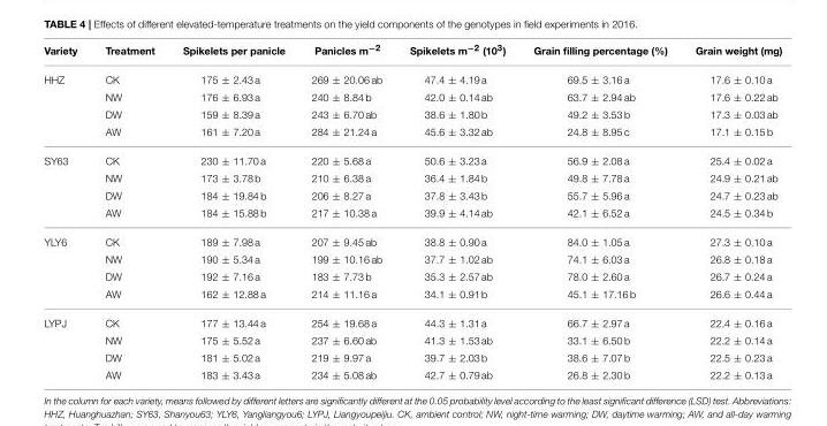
<table><thead><tr><td>Variety</td><td>Treatment</td><td>Spikelets per panicle</td><td>Panicles m<sup>−2</sup></td><td>Spikelets m<sup>−2</sup> (10<sup>3</sup>)</td><td>Grain filling percentage (%)</td><td>Grain weight (mg)</td></tr></thead><tbody><tr><td rowspan="4">HHZ</td><td>CK</td><td>175 ± 2.43 a</td><td>269 ± 20.06 ab</td><td>47.4 ± 4.19 a</td><td>69.5 ± 3.16 a</td><td>17.6 ± 0.10 a</td></tr><tr><td>NW</td><td>176 ± 6.93 a</td><td>240 ± 8.84 b</td><td>42.0 ± 0.14 ab</td><td>63.7 ± 2.94 ab</td><td>17.6 ± 0.22 ab</td></tr><tr><td>DW</td><td>159 ± 8.39 a</td><td>243 ± 6.70 ab</td><td>38.6 ± 1.80 b</td><td>49.2 ± 3.53 b</td><td>17.3 ± 0.03 ab</td></tr><tr><td>AW</td><td>161 ± 7.20 a</td><td>284 ± 21.24 a</td><td>45.6 ± 3.32 ab</td><td>24.8 ± 8.95 c</td><td>17.1 ± 0.15 b</td></tr><tr><td rowspan="4">SY63</td><td>CK</td><td>230 ± 11.70 a</td><td>220 ± 5.68 a</td><td>50.6 ± 3.23 a</td><td>56.9 ± 2.08 a</td><td>25.4 ± 0.02 a</td></tr><tr><td>NW</td><td>173 ± 3.78 b</td><td>210 ± 6.38 a</td><td>36.4 ± 1.84 b</td><td>49.8 ± 7.78 a</td><td>24.9 ± 0.21 ab</td></tr><tr><td>DW</td><td>184 ± 19.84 b</td><td>206 ± 8.27 a</td><td>37.8 ± 3.43 b</td><td>55.7 ± 5.96 a</td><td>24.7 ± 0.23 ab</td></tr><tr><td>AW</td><td>184 ± 15.88 b</td><td>217 ± 10.38 a</td><td>39.9 ± 4.14 ab</td><td>42.1 ± 6.52 a</td><td>24.5 ± 0.34 b</td></tr><tr><td rowspan="4">YLY6</td><td>CK</td><td>189 ± 7.98 a</td><td>207 ± 9.45 ab</td><td>38.8 ± 0.90 a</td><td>84.0 ± 1.05 a</td><td>27.3 ± 0.10 a</td></tr><tr><td>NW</td><td>190 ± 5.34 a</td><td>199 ± 10.16 ab</td><td>37.7 ± 1.02 ab</td><td>74.1 ± 6.03 a</td><td>26.8 ± 0.18 a</td></tr><tr><td>DW</td><td>192 ± 7.16 a</td><td>183 ± 7.73 b</td><td>35.3 ± 2.57 ab</td><td>78.0 ± 2.60 a</td><td>26.7 ± 0.24 a</td></tr><tr><td>AW</td><td>162 ± 12.88 a</td><td>214 ± 11.16 a</td><td>34.1 ± 0.91 b</td><td>45.1 ± 17.16 b</td><td>26.6 ± 0.44 a</td></tr><tr><td rowspan="4">LYPJ</td><td>CK</td><td>177 ± 13.44 a</td><td>254 ± 19.68 a</td><td>44.3 ± 1.31 a</td><td>66.7 ± 2.97 a</td><td>22.4 ± 0.16 a</td></tr><tr><td>NW</td><td>175 ± 5.52 a</td><td>237 ± 6.60 ab</td><td>41.3 ± 1.53 ab</td><td>33.1 ± 6.50 b</td><td>22.2 ± 0.14 a</td></tr><tr><td>DW</td><td>181 ± 5.02 a</td><td>219 ± 9.97 a</td><td>39.7 ± 2.03 b</td><td>38.6 ± 7.07 b</td><td>22.5 ± 0.23 a</td></tr><tr><td>AW</td><td>183 ± 3.43 a</td><td>234 ± 5.08 ab</td><td>42.7 ± 0.79 ab</td><td>26.8 ± 2.30 b</td><td>22.2 ± 0.13 a</td></tr></tbody></table>